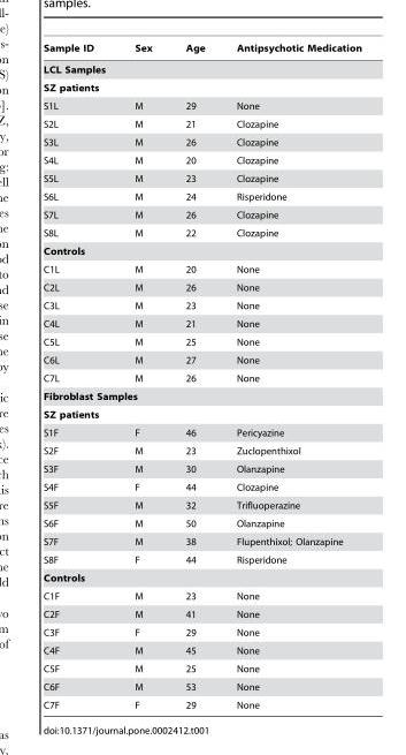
<table><thead><tr><td>Sample ID</td><td>Sex</td><td>Age</td><td>Antipsychotic Medication</td></tr></thead><tbody><tr><td colspan="4">LCL Samples</td></tr><tr><td colspan="4">SZ patients</td></tr><tr><td>S1L</td><td>M</td><td>29</td><td>None</td></tr><tr><td>S2L</td><td>M</td><td>21</td><td>Clozapine</td></tr><tr><td>S3L</td><td>M</td><td>26</td><td>Clozapine</td></tr><tr><td>S4L</td><td>M</td><td>20</td><td>Clozapine</td></tr><tr><td>S5L</td><td>M</td><td>23</td><td>Clozapine</td></tr><tr><td>S6L</td><td>M</td><td>24</td><td>Risperidone</td></tr><tr><td>S7L</td><td>M</td><td>26</td><td>Clozapine</td></tr><tr><td>S8L</td><td>M</td><td>22</td><td>Clozapine</td></tr><tr><td colspan="4">Controls</td></tr><tr><td>C1L</td><td>M</td><td>20</td><td>None</td></tr><tr><td>C2L</td><td>M</td><td>26</td><td>None</td></tr><tr><td>C3L</td><td>M</td><td>23</td><td>None</td></tr><tr><td>C4L</td><td>M</td><td>21</td><td>None</td></tr><tr><td>C5L</td><td>M</td><td>25</td><td>None</td></tr><tr><td>C6L</td><td>M</td><td>27</td><td>None</td></tr><tr><td>C7L</td><td>M</td><td>26</td><td>None</td></tr><tr><td colspan="4">Fibroblast Samples</td></tr><tr><td colspan="4">SZ patients</td></tr><tr><td>S1F</td><td>F</td><td>46</td><td>Pericyazine</td></tr><tr><td>S2F</td><td>M</td><td>23</td><td>Zuclopenthixol</td></tr><tr><td>S3F</td><td>M</td><td>30</td><td>Olanzapine</td></tr><tr><td>S4F</td><td>F</td><td>44</td><td>Clozapine</td></tr><tr><td>S5F</td><td>M</td><td>32</td><td>Trifluoperazine</td></tr><tr><td>S6F</td><td>M</td><td>50</td><td>Olanzapine</td></tr><tr><td>S7F</td><td>M</td><td>38</td><td>Flupenthixol; Olanzapine</td></tr><tr><td>S8F</td><td>F</td><td>44</td><td>Risperidone</td></tr><tr><td colspan="4">Controls</td></tr><tr><td>C1F</td><td>M</td><td>23</td><td>None</td></tr><tr><td>C2F</td><td>M</td><td>41</td><td>None</td></tr><tr><td>C3F</td><td>F</td><td>29</td><td>None</td></tr><tr><td>C4F</td><td>M</td><td>45</td><td>None</td></tr><tr><td>C5F</td><td>M</td><td>25</td><td>None</td></tr><tr><td>C6F</td><td>M</td><td>53</td><td>None</td></tr><tr><td>C7F</td><td>F</td><td>29</td><td>None</td></tr></tbody></table>